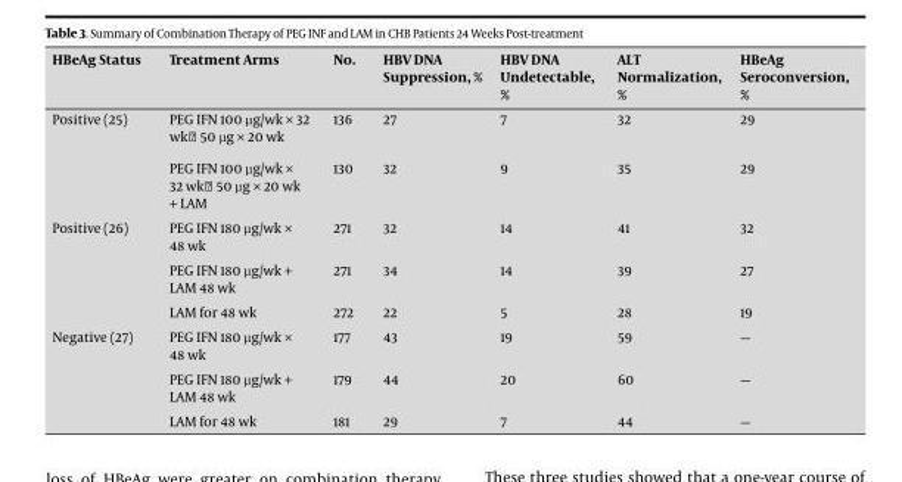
<table><thead><tr><td>HBeAg Status</td><td>Treatment Arms</td><td>No.</td><td>HBV DNA Suppression, %</td><td>HBV DNA Undetectable, %</td><td>ALT Normalization, %</td><td>HBeAg Seroconversion, %</td></tr></thead><tbody><tr><td rowspan="2">Positive (25)</td><td>PEG IFN 100 μg/wk × 32 wk→ 50 μg × 20 wk</td><td>136</td><td>27</td><td>7</td><td>32</td><td>29</td></tr><tr><td>PEG IFN 100 μg/wk × 32 wk→ 50 μg × 20 wk + LAM</td><td>130</td><td>32</td><td>9</td><td>35</td><td>29</td></tr><tr><td rowspan="3">Positive (26)</td><td>PEG IFN 180 μg/wk × 48 wk</td><td>271</td><td>32</td><td>14</td><td>41</td><td>32</td></tr><tr><td>PEG IFN 180 μg/wk + LAM 48 wk</td><td>271</td><td>34</td><td>14</td><td>39</td><td>27</td></tr><tr><td>LAM for 48 wk</td><td>272</td><td>22</td><td>5</td><td>28</td><td>19</td></tr><tr><td rowspan="3">Negative (27)</td><td>PEG IFN 180 μg/wk × 48 wk</td><td>177</td><td>43</td><td>19</td><td>59</td><td>―</td></tr><tr><td>PEG IFN 180 μg/wk + LAM 48 wk</td><td>179</td><td>44</td><td>20</td><td>60</td><td>―</td></tr><tr><td>LAM for 48 wk</td><td>181</td><td>29</td><td>7</td><td>44</td><td>―</td></tr></tbody></table>